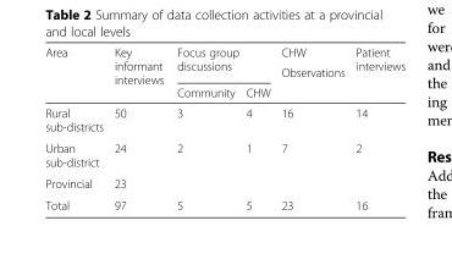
<table><thead><tr><td rowspan="3">Area</td><td rowspan="3">Key informant interviews</td><td rowspan="2" colspan="2">Focus group discussions</td><td rowspan="3">CHW Observations</td><td rowspan="3">Patient interviews</td></tr><tr></tr><tr><td>Community</td><td>CHW</td></tr></thead><tbody><tr><td>Rural sub-districts</td><td>50</td><td>3</td><td>4</td><td>16</td><td>14</td></tr><tr><td>Urban sub-district</td><td>24</td><td>2</td><td>1</td><td>7</td><td>2</td></tr><tr><td>Provincial</td><td>23</td><td></td><td></td><td></td><td></td></tr><tr><td>Total</td><td>97</td><td>5</td><td>5</td><td>23</td><td>16</td></tr></tbody></table>